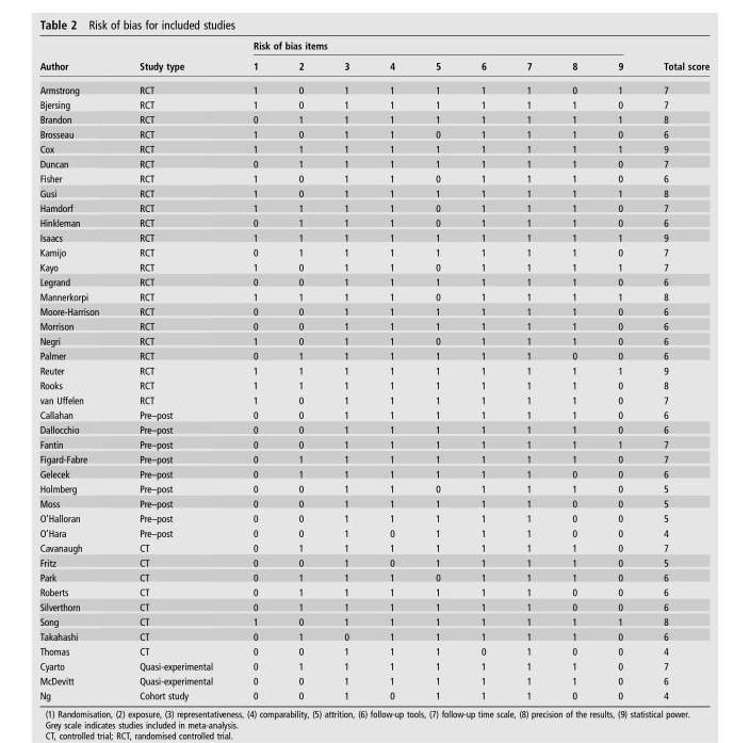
<table><thead><tr><td rowspan="2">Author</td><td rowspan="2">Study type</td><td colspan="9">Risk of bias items</td><td rowspan="2">Total score</td></tr><tr><td>1</td><td>2</td><td>3</td><td>4</td><td>5</td><td>6</td><td>7</td><td>8</td><td>9</td></tr></thead><tbody><tr><td>Armstrong</td><td>RCT</td><td>1</td><td>0</td><td>1</td><td>1</td><td>1</td><td>1</td><td>1</td><td>0</td><td>1</td><td>7</td></tr><tr><td>Bjersing</td><td>RCT</td><td>1</td><td>0</td><td>1</td><td>1</td><td>1</td><td>1</td><td>1</td><td>1</td><td>0</td><td>7</td></tr><tr><td>Brandon</td><td>RCT</td><td>0</td><td>1</td><td>1</td><td>1</td><td>1</td><td>1</td><td>1</td><td>1</td><td>1</td><td>8</td></tr><tr><td>Brosseau</td><td>RCT</td><td>1</td><td>0</td><td>1</td><td>1</td><td>0</td><td>1</td><td>1</td><td>1</td><td>0</td><td>6</td></tr><tr><td>Cox</td><td>RCT</td><td>1</td><td>1</td><td>1</td><td>1</td><td>1</td><td>1</td><td>1</td><td>1</td><td>1</td><td>9</td></tr><tr><td>Duncan</td><td>RCT</td><td>0</td><td>1</td><td>1</td><td>1</td><td>1</td><td>1</td><td>1</td><td>1</td><td>0</td><td>7</td></tr><tr><td>Fisher</td><td>RCT</td><td>1</td><td>0</td><td>1</td><td>1</td><td>0</td><td>1</td><td>1</td><td>1</td><td>0</td><td>6</td></tr><tr><td>Gusi</td><td>RCT</td><td>1</td><td>0</td><td>1</td><td>1</td><td>1</td><td>1</td><td>1</td><td>1</td><td>1</td><td>8</td></tr><tr><td>Hamdorf</td><td>RCT</td><td>1</td><td>1</td><td>1</td><td>1</td><td>0</td><td>1</td><td>1</td><td>1</td><td>0</td><td>7</td></tr><tr><td>Hinkleman</td><td>RCT</td><td>0</td><td>1</td><td>1</td><td>1</td><td>0</td><td>1</td><td>1</td><td>1</td><td>0</td><td>6</td></tr><tr><td>Isaacs</td><td>RCT</td><td>1</td><td>1</td><td>1</td><td>1</td><td>1</td><td>1</td><td>1</td><td>1</td><td>1</td><td>9</td></tr><tr><td>Kamijo</td><td>RCT</td><td>0</td><td>1</td><td>1</td><td>1</td><td>1</td><td>1</td><td>1</td><td>1</td><td>0</td><td>7</td></tr><tr><td>Kayo</td><td>RCT</td><td>1</td><td>0</td><td>1</td><td>1</td><td>0</td><td>1</td><td>1</td><td>1</td><td>1</td><td>7</td></tr><tr><td>Legrand</td><td>RCT</td><td>0</td><td>0</td><td>1</td><td>1</td><td>1</td><td>1</td><td>1</td><td>1</td><td>0</td><td>6</td></tr><tr><td>Mannerkorpi</td><td>RCT</td><td>1</td><td>1</td><td>1</td><td>1</td><td>0</td><td>1</td><td>1</td><td>1</td><td>1</td><td>8</td></tr><tr><td>Moore-Harrison</td><td>RCT</td><td>0</td><td>0</td><td>1</td><td>1</td><td>1</td><td>1</td><td>1</td><td>1</td><td>0</td><td>6</td></tr><tr><td>Morrison</td><td>RCT</td><td>0</td><td>0</td><td>1</td><td>1</td><td>1</td><td>1</td><td>1</td><td>1</td><td>0</td><td>6</td></tr><tr><td>Negri</td><td>RCT</td><td>1</td><td>0</td><td>1</td><td>1</td><td>0</td><td>1</td><td>1</td><td>1</td><td>0</td><td>6</td></tr><tr><td>Palmer</td><td>RCT</td><td>0</td><td>1</td><td>1</td><td>1</td><td>1</td><td>1</td><td>1</td><td>0</td><td>0</td><td>6</td></tr><tr><td>Reuter</td><td>RCT</td><td>1</td><td>1</td><td>1</td><td>1</td><td>1</td><td>1</td><td>1</td><td>1</td><td>1</td><td>9</td></tr><tr><td>Rooks</td><td>RCT</td><td>1</td><td>1</td><td>1</td><td>1</td><td>1</td><td>1</td><td>1</td><td>1</td><td>0</td><td>8</td></tr><tr><td>van Uffelen</td><td>RCT</td><td>1</td><td>0</td><td>1</td><td>1</td><td>1</td><td>1</td><td>1</td><td>1</td><td>0</td><td>7</td></tr><tr><td>Callahan</td><td>Pre–post</td><td>0</td><td>0</td><td>1</td><td>1</td><td>1</td><td>1</td><td>1</td><td>1</td><td>0</td><td>6</td></tr><tr><td>Dallocchio</td><td>Pre–post</td><td>0</td><td>0</td><td>1</td><td>1</td><td>1</td><td>1</td><td>1</td><td>1</td><td>0</td><td>6</td></tr><tr><td>Fantin</td><td>Pre–post</td><td>0</td><td>0</td><td>1</td><td>1</td><td>1</td><td>1</td><td>1</td><td>1</td><td>1</td><td>7</td></tr><tr><td>Figard-Fabre</td><td>Pre–post</td><td>0</td><td>1</td><td>1</td><td>1</td><td>1</td><td>1</td><td>1</td><td>1</td><td>0</td><td>7</td></tr><tr><td>Gelecek</td><td>Pre–post</td><td>0</td><td>1</td><td>1</td><td>1</td><td>1</td><td>1</td><td>1</td><td>0</td><td>0</td><td>6</td></tr><tr><td>Holmberg</td><td>Pre–post</td><td>0</td><td>0</td><td>1</td><td>1</td><td>0</td><td>1</td><td>1</td><td>1</td><td>0</td><td>5</td></tr><tr><td>Moss</td><td>Pre–post</td><td>0</td><td>0</td><td>1</td><td>1</td><td>1</td><td>1</td><td>1</td><td>0</td><td>0</td><td>5</td></tr><tr><td>O’Halloran</td><td>Pre–post</td><td>0</td><td>0</td><td>1</td><td>1</td><td>1</td><td>1</td><td>1</td><td>0</td><td>0</td><td>5</td></tr><tr><td>O’Hara</td><td>Pre–post</td><td>0</td><td>0</td><td>1</td><td>0</td><td>1</td><td>1</td><td>1</td><td>0</td><td>0</td><td>4</td></tr><tr><td>Cavanaugh</td><td>CT</td><td>0</td><td>1</td><td>1</td><td>1</td><td>1</td><td>1</td><td>1</td><td>1</td><td>0</td><td>7</td></tr><tr><td>Fritz</td><td>CT</td><td>0</td><td>0</td><td>1</td><td>0</td><td>1</td><td>1</td><td>1</td><td>1</td><td>0</td><td>5</td></tr><tr><td>Park</td><td>CT</td><td>0</td><td>1</td><td>1</td><td>1</td><td>0</td><td>1</td><td>1</td><td>1</td><td>0</td><td>6</td></tr><tr><td>Roberts</td><td>CT</td><td>0</td><td>1</td><td>1</td><td>1</td><td>1</td><td>1</td><td>1</td><td>0</td><td>0</td><td>6</td></tr><tr><td>Silverthorn</td><td>CT</td><td>0</td><td>1</td><td>1</td><td>1</td><td>1</td><td>1</td><td>1</td><td>0</td><td>0</td><td>6</td></tr><tr><td>Song</td><td>CT</td><td>1</td><td>0</td><td>1</td><td>1</td><td>1</td><td>1</td><td>1</td><td>1</td><td>1</td><td>8</td></tr><tr><td>Takahashi</td><td>CT</td><td>0</td><td>1</td><td>0</td><td>1</td><td>1</td><td>1</td><td>1</td><td>1</td><td>0</td><td>6</td></tr><tr><td>Thomas</td><td>CT</td><td>0</td><td>0</td><td>1</td><td>1</td><td>1</td><td>0</td><td>1</td><td>0</td><td>0</td><td>4</td></tr><tr><td>Cyarto</td><td>Quasi-experimental</td><td>0</td><td>1</td><td>1</td><td>1</td><td>1</td><td>1</td><td>1</td><td>1</td><td>0</td><td>7</td></tr><tr><td>McDevitt</td><td>Quasi-experimental</td><td>0</td><td>0</td><td>1</td><td>1</td><td>1</td><td>1</td><td>1</td><td>1</td><td>0</td><td>6</td></tr><tr><td>Ng</td><td>Cohort study</td><td>0</td><td>0</td><td>1</td><td>0</td><td>1</td><td>1</td><td>1</td><td>0</td><td>0</td><td>4</td></tr></tbody></table>